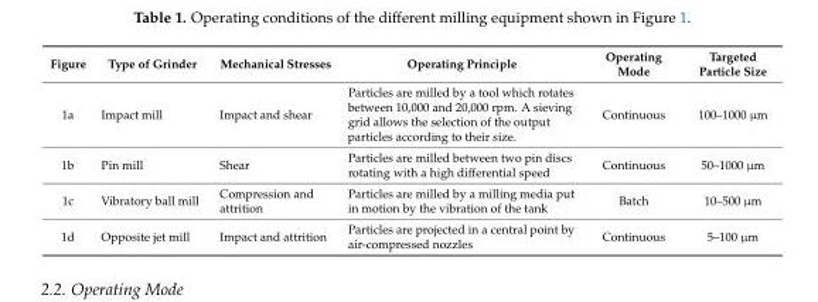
<table><thead><tr><td>Figure</td><td>Type of Grinder</td><td>Mechanical Stresses</td><td>Operating Principle</td><td>Operating Mode</td><td>Targeted Particle Size</td></tr></thead><tbody><tr><td>1a</td><td>Impact mill</td><td>Impact and shear</td><td>Particles are milled by a tool which rotates between 10,000 and 20,000 rpm. A sieving grid allows the selection of the output particles according to their size.</td><td>Continuous</td><td>100–1000 µm</td></tr><tr><td>1b</td><td>Pin mill</td><td>Shear</td><td>Particles are milled between two pin discs rotating with a high differential speed</td><td>Continuous</td><td>50–1000 µm</td></tr><tr><td>1c</td><td>Vibratory ball mill</td><td>Compression and attrition</td><td>Particles are milled by a milling media put in motion by the vibration of the tank</td><td>Batch</td><td>10–500 µm</td></tr><tr><td>1d</td><td>Opposite jet mill</td><td>Impact and attrition</td><td>Particles are projected in a central point by air-compressed nozzles</td><td>Continuous</td><td>5–100 µm</td></tr></tbody></table>